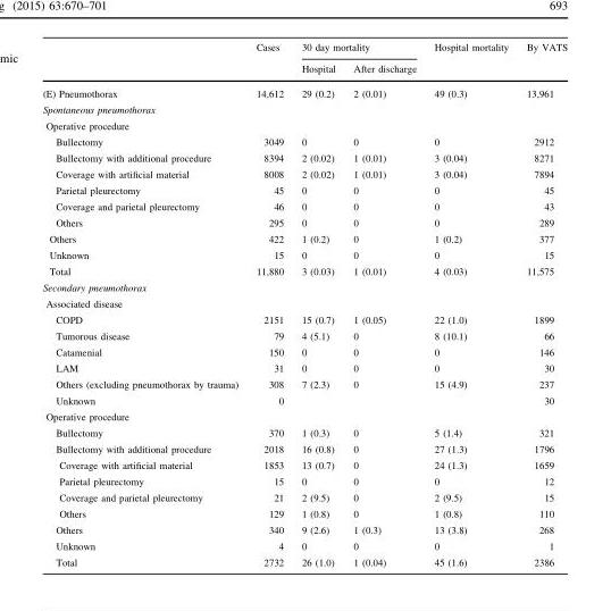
<table><thead><tr><td rowspan="2"></td><td rowspan="2">Cases</td><td colspan="2">30 day mortality</td><td rowspan="2">Hospital mortality</td><td rowspan="2">By VATS</td></tr><tr><td>Hospital</td><td>After discharge</td></tr></thead><tbody><tr><td>(E) Pneumothorax</td><td>14,612</td><td>29 (0.2)</td><td>2 (0.01)</td><td>49 (0.3)</td><td>13,961</td></tr><tr><td colspan="6">Spontaneous pneumothorax</td></tr><tr><td colspan="6">Operative procedure</td></tr><tr><td>Bullectomy</td><td>3049</td><td>0</td><td>0</td><td>0</td><td>2912</td></tr><tr><td>Bullectomy with additional procedure</td><td>8394</td><td>2 (0.02)</td><td>1 (0.01)</td><td>3 (0.04)</td><td>8271</td></tr><tr><td>Coverage with artificial material</td><td>8008</td><td>2 (0.02)</td><td>1 (0.01)</td><td>3 (0.04)</td><td>7894</td></tr><tr><td>Parietal pleurectomy</td><td>45</td><td>0</td><td>0</td><td>0</td><td>45</td></tr><tr><td>Coverage and parietal pleurectomy</td><td>46</td><td>0</td><td>0</td><td>0</td><td>43</td></tr><tr><td>Others</td><td>295</td><td>0</td><td>0</td><td>0</td><td>289</td></tr><tr><td>Others</td><td>422</td><td>1 (0.2)</td><td>0</td><td>1 (0.2)</td><td>377</td></tr><tr><td>Unknown</td><td>15</td><td>0</td><td>0</td><td>0</td><td>15</td></tr><tr><td>Total</td><td>11,880</td><td>3 (0.03)</td><td>1 (0.01)</td><td>4 (0.03)</td><td>11,575</td></tr><tr><td colspan="6">Secondary pneumothorax</td></tr><tr><td colspan="6">Associated disease</td></tr><tr><td>COPD</td><td>2151</td><td>15 (0.7)</td><td>1 (0.05)</td><td>22 (1.0)</td><td>1899</td></tr><tr><td>Tumorous disease</td><td>79</td><td>4 (5.1)</td><td>0</td><td>8 (10.1)</td><td>66</td></tr><tr><td>Catamenial</td><td>150</td><td>0</td><td>0</td><td>0</td><td>146</td></tr><tr><td>LAM</td><td>31</td><td>0</td><td>0</td><td>0</td><td>30</td></tr><tr><td>Others (excluding pneumothorax by trauma)</td><td>308</td><td>7 (2.3)</td><td>0</td><td>15 (4.9)</td><td>237</td></tr><tr><td>Unknown</td><td>0</td><td></td><td></td><td></td><td>30</td></tr><tr><td colspan="6">Operative procedure</td></tr><tr><td>Bullectomy</td><td>370</td><td>1 (0.3)</td><td>0</td><td>5 (1.4)</td><td>321</td></tr><tr><td>Bullectomy with additional procedure</td><td>2018</td><td>16 (0.8)</td><td>0</td><td>27 (1.3)</td><td>1796</td></tr><tr><td>Coverage with artificial material</td><td>1853</td><td>13 (0.7)</td><td>0</td><td>24 (1.3)</td><td>1659</td></tr><tr><td>Parietal pleurectomy</td><td>15</td><td>0</td><td>0</td><td>0</td><td>12</td></tr><tr><td>Coverage and parietal pleurectomy</td><td>21</td><td>2 (9.5)</td><td>0</td><td>2 (9.5)</td><td>15</td></tr><tr><td>Others</td><td>129</td><td>1 (0.8)</td><td>0</td><td>1 (0.8)</td><td>110</td></tr><tr><td>Others</td><td>340</td><td>9 (2.6)</td><td>1 (0.3)</td><td>13 (3.8)</td><td>268</td></tr><tr><td>Unknown</td><td>4</td><td>0</td><td>0</td><td>0</td><td>1</td></tr><tr><td>Total</td><td>2732</td><td>26 (1.0)</td><td>1 (0.04)</td><td>45 (1.6)</td><td>2386</td></tr></tbody></table>